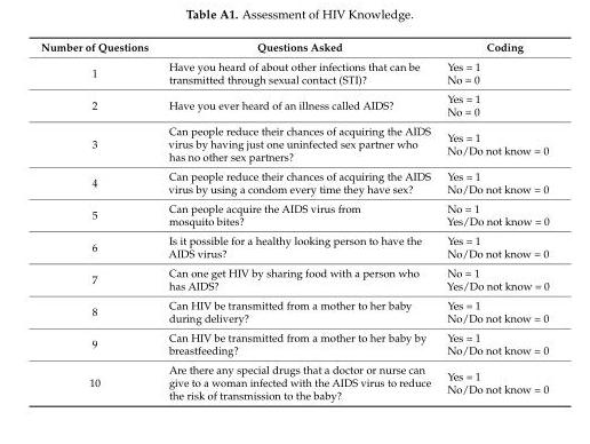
<table><thead><tr><td>Number of Questions</td><td>Questions Asked</td><td>Coding</td></tr></thead><tbody><tr><td>1</td><td>Have you heard of about other infections that can be transmitted through sexual contact (STI)?</td><td>Yes = 1 No = 0</td></tr><tr><td>2</td><td>Have you ever heard of an illness called AIDS?</td><td>Yes = 1 No = 0</td></tr><tr><td>3</td><td>Can people reduce their chances of acquiring the AIDS virus by having just one uninfected sex partner who has no other sex partners?</td><td>Yes = 1 No/Do not know = 0</td></tr><tr><td>4</td><td>Can people reduce their chances of acquiring the AIDS virus by using a condom every time they have sex?</td><td>Yes = 1 No/Do not know = 0</td></tr><tr><td>5</td><td>Can people acquire the AIDS virus from mosquito bites?</td><td>No = 1 Yes/Do not know = 0</td></tr><tr><td>6</td><td>Is it possible for a healthy looking person to have the AIDS virus?</td><td>Yes = 1 No/Do not know = 0</td></tr><tr><td>7</td><td>Can one get HIV by sharing food with a person who has AIDS?</td><td>No = 1 Yes/Do not know = 0</td></tr><tr><td>8</td><td>Can HIV be transmitted from a mother to her baby during delivery?</td><td>Yes = 1 No/Do not know = 0</td></tr><tr><td>9</td><td>Can HIV be transmitted from a mother to her baby by breastfeeding?</td><td>Yes = 1 No/Do not know = 0</td></tr><tr><td>10</td><td>Are there any special drugs that a doctor or nurse can give to a woman infected with the AIDS virus to reduce the risk of transmission to the baby?</td><td>Yes = 1 No/Do not know = 0</td></tr></tbody></table>